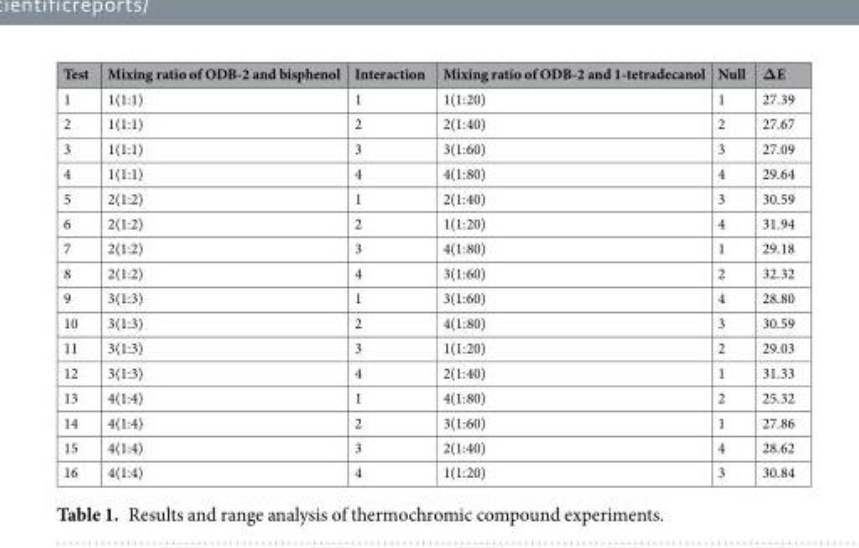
<table><thead><tr><td>Test</td><td>Mixing ratio of ODB-2 and bisphenol</td><td>Interaction</td><td>Mixing ratio of ODB-2 and 1-tetradecanol</td><td>Null</td><td>ΔE</td></tr></thead><tbody><tr><td>1</td><td>1(1:1)</td><td>1</td><td>1(1:20)</td><td>1</td><td>27.39</td></tr><tr><td>2</td><td>1(1:1)</td><td>2</td><td>2(1:40)</td><td>2</td><td>27.67</td></tr><tr><td>3</td><td>1(1:1)</td><td>3</td><td>3(1:60)</td><td>3</td><td>27.09</td></tr><tr><td>4</td><td>1(1:1)</td><td>4</td><td>4(1:80)</td><td>4</td><td>29.64</td></tr><tr><td>5</td><td>2(1:2)</td><td>1</td><td>2(1:40)</td><td>3</td><td>30.59</td></tr><tr><td>6</td><td>2(1:2)</td><td>2</td><td>1(1:20)</td><td>4</td><td>31.94</td></tr><tr><td>7</td><td>2(1:2)</td><td>3</td><td>4(1:80)</td><td>1</td><td>29.18</td></tr><tr><td>8</td><td>2(1:2)</td><td>4</td><td>3(1:60)</td><td>2</td><td>32.32</td></tr><tr><td>9</td><td>3(1:3)</td><td>1</td><td>3(1:60)</td><td>4</td><td>28.80</td></tr><tr><td>10</td><td>3(1:3)</td><td>2</td><td>4(1:80)</td><td>3</td><td>30.59</td></tr><tr><td>11</td><td>3(1:3)</td><td>3</td><td>1(1:20)</td><td>2</td><td>29.03</td></tr><tr><td>12</td><td>3(1:3)</td><td>4</td><td>2(1:40)</td><td>1</td><td>31.33</td></tr><tr><td>13</td><td>4(1:4)</td><td>1</td><td>4(1:80)</td><td>2</td><td>25.32</td></tr><tr><td>14</td><td>4(1:4)</td><td>2</td><td>3(1:60)</td><td>1</td><td>27.86</td></tr><tr><td>15</td><td>4(1:4)</td><td>3</td><td>2(1:40)</td><td>4</td><td>28.62</td></tr><tr><td>16</td><td>4(1:4)</td><td>4</td><td>1(1:20)</td><td>3</td><td>30.84</td></tr></tbody></table>